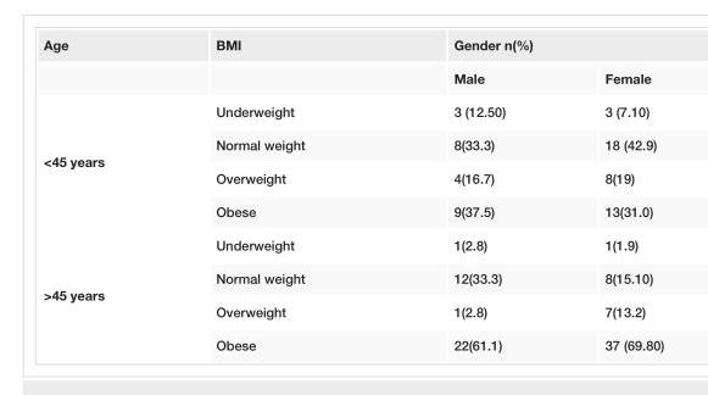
<table><tbody><tr><td rowspan="2">Age</td><td>BMI</td><td colspan="2">Gender n(%)</td></tr><tr><td></td><td>Male</td><td>Female</td></tr><tr><td rowspan="4">&lt;45 years</td><td>Underweight</td><td>3 (12.50)</td><td>3 (7.10)</td></tr><tr><td>Normal weight</td><td>8(33.3)</td><td>18 (42.9)</td></tr><tr><td>Overweight</td><td>4(16.7)</td><td>8(19)</td></tr><tr><td>Obese</td><td>9(37.5)</td><td>13(31.0)</td></tr><tr><td rowspan="4">&gt;45 years</td><td>Underweight</td><td>1(2.8)</td><td>1(1.9)</td></tr><tr><td>Normal weight</td><td>12(33.3)</td><td>8(15.10)</td></tr><tr><td>Overweight</td><td>1(2.8)</td><td>7(13.2)</td></tr><tr><td>Obese</td><td>22(61.1)</td><td>37 (69.80)</td></tr></tbody></table>